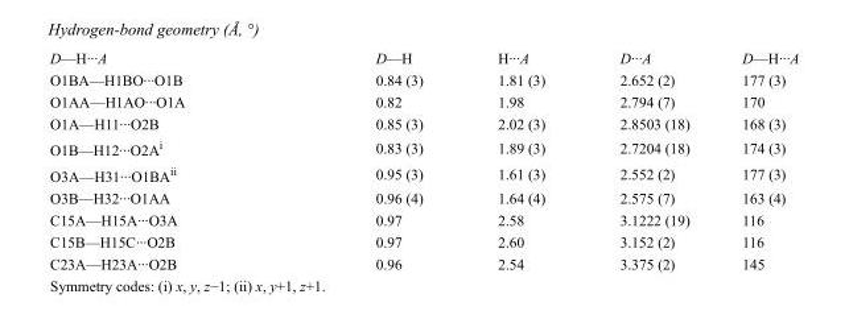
<table><tbody><tr><td>D—H···A</td><td>D—H</td><td>H···A</td><td>D···A</td><td>D—H···A</td></tr><tr><td>O1BA—H1BO···O1B</td><td>0.84 (3)</td><td>1.81 (3)</td><td>2.652 (2)</td><td>177 (3)</td></tr><tr><td>O1AA—H1AO···O1A</td><td>0.82</td><td>1.98</td><td>2.794 (7)</td><td>170</td></tr><tr><td>O1A—H11···O2B</td><td>0.85 (3)</td><td>2.02 (3)</td><td>2.8503 (18)</td><td>168 (3)</td></tr><tr><td>O1B—H12···O2A<sup>i</sup></td><td>0.83 (3)</td><td>1.89 (3)</td><td>2.7204 (18)</td><td>174 (3)</td></tr><tr><td>O3A—H31···O1BA<sup>ii</sup></td><td>0.95 (3)</td><td>1.61 (3)</td><td>2.552 (2)</td><td>177 (3)</td></tr><tr><td>O3B—H32···O1AA</td><td>0.96 (4)</td><td>1.64 (4)</td><td>2.575 (7)</td><td>163 (4)</td></tr><tr><td>C15A—H15A···O3A</td><td>0.97</td><td>2.58</td><td>3.1222 (19)</td><td>116</td></tr><tr><td>C15B—H15C···O2B</td><td>0.97</td><td>2.60</td><td>3.152 (2)</td><td>116</td></tr><tr><td>C23A—H23A···O2B</td><td>0.96</td><td>2.54</td><td>3.375 (2)</td><td>145</td></tr></tbody></table>